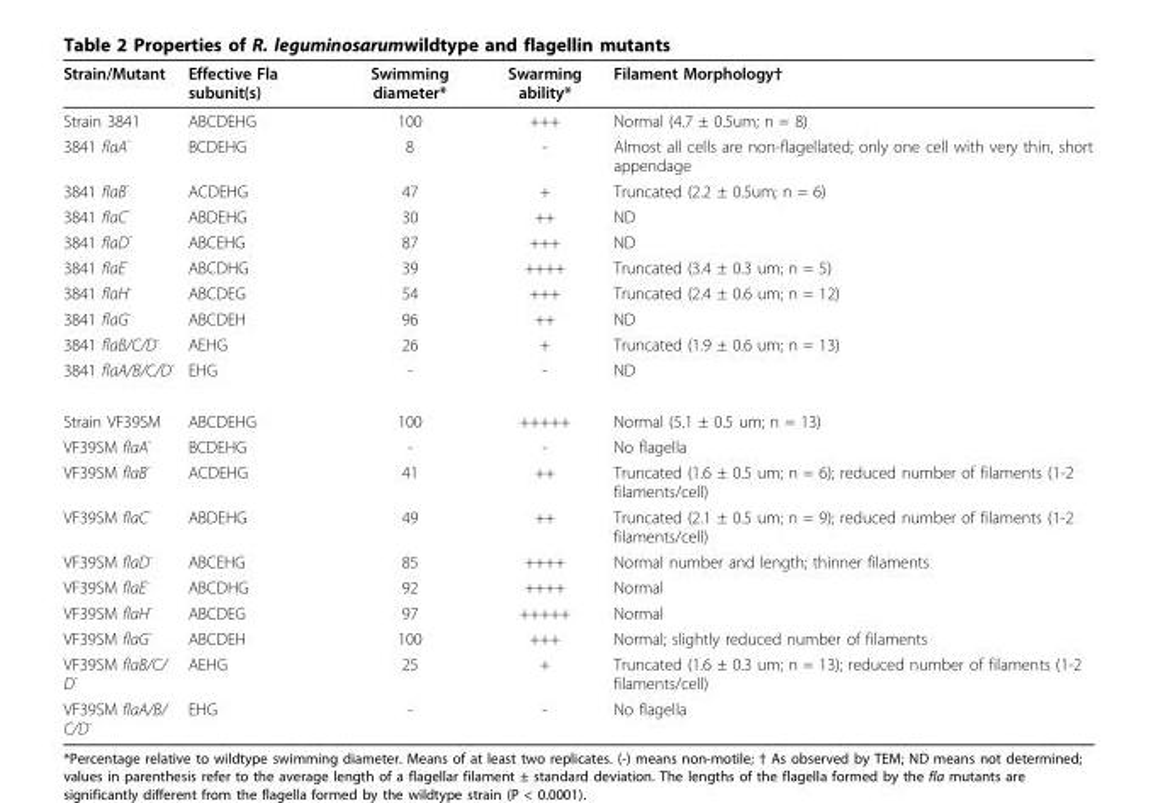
<table><thead><tr><td>Strain/Mutant</td><td>Effective Fla subunit(s)</td><td>Swimming diameter*</td><td>Swarming ability*</td><td>Filament Morphology†</td></tr></thead><tbody><tr><td>Strain 3841</td><td>ABCDEHG</td><td>100</td><td>+++</td><td>Normal (4.7 ± 0.5um; n = 8)</td></tr><tr><td>3841 flaA<sup>-</sup></td><td>BCDEHG</td><td>8</td><td>-</td><td>Almost all cells are non-flagellated; only one cell with very thin, short appendage</td></tr><tr><td>3841 flaB<sup>-</sup></td><td>ACDEHG</td><td>47</td><td>+</td><td>Truncated (2.2 ± 0.5um; n = 6)</td></tr><tr><td>3841 flaC<sup>-</sup></td><td>ABDEHG</td><td>30</td><td>++</td><td>ND</td></tr><tr><td>3841 flaD<sup>-</sup></td><td>ABCEHG</td><td>87</td><td>+++</td><td>ND</td></tr><tr><td>3841 flaE<sup>-</sup></td><td>ABCDHG</td><td>39</td><td>++++</td><td>Truncated (3.4 ± 0.3 um; n = 5)</td></tr><tr><td>3841 flaH<sup>-</sup></td><td>ABCDEG</td><td>54</td><td>+++</td><td>Truncated (2.4 ± 0.6 um; n = 12)</td></tr><tr><td>3841 flaG<sup>-</sup></td><td>ABCDEH</td><td>96</td><td>++</td><td>ND</td></tr><tr><td>3841 flaB/C/D<sup>-</sup></td><td>AEHG</td><td>26</td><td>+</td><td>Truncated (1.9 ± 0.6 um; n = 13)</td></tr><tr><td>3841 flaA/B/C/D<sup>-</sup></td><td>EHG</td><td>-</td><td>-</td><td>ND</td></tr><tr><td>Strain VF39SM</td><td>ABCDEHG</td><td>100</td><td>+++++</td><td>Normal (5.1 ± 0.5 um; n = 13)</td></tr><tr><td>VF39SM flaA<sup>-</sup></td><td>BCDEHG</td><td>-</td><td>-</td><td>No flagella</td></tr><tr><td>VF39SM flaB<sup>-</sup></td><td>ACDEHG</td><td>41</td><td>++</td><td>Truncated (1.6 ± 0.5 um; n = 6); reduced number of filaments (1-2 filaments/cell)</td></tr><tr><td>VF39SM flaC<sup>-</sup></td><td>ABDEHG</td><td>49</td><td>++</td><td>Truncated (2.1 ± 0.5 um; n = 9); reduced number of filaments (1-2 filaments/cell)</td></tr><tr><td>VF39SM flaD<sup>-</sup></td><td>ABCEHG</td><td>85</td><td>++++</td><td>Normal number and length; thinner filaments</td></tr><tr><td>VF39SM flaE<sup>-</sup></td><td>ABCDHG</td><td>92</td><td>++++</td><td>Normal</td></tr><tr><td>VF39SM flaH<sup>-</sup></td><td>ABCDEG</td><td>97</td><td>+++++</td><td>Normal</td></tr><tr><td>VF39SM flaG<sup>-</sup></td><td>ABCDEH</td><td>100</td><td>+++</td><td>Normal; slightly reduced number of filaments</td></tr><tr><td>VF39SM flaB/C/ D<sup>-</sup></td><td>AEHG</td><td>25</td><td>+</td><td>Truncated (1.6 ± 0.3 um; n = 13); reduced number of filaments (1-2 filaments/cell)</td></tr><tr><td>VF39SM flaA/B/ C/D<sup>-</sup></td><td>EHG</td><td>-</td><td>-</td><td>No flagella</td></tr></tbody></table>